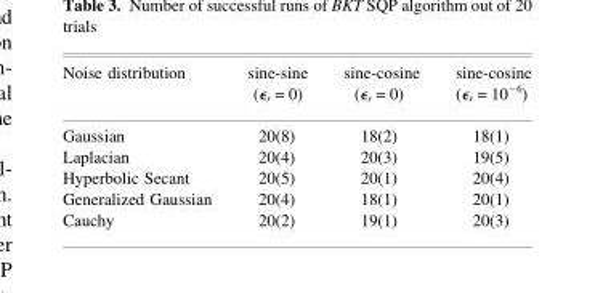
<table><thead><tr><td>Noise distribution</td><td>sine-sine (ϵ<sub>r</sub> = 0)</td><td>sine-cosine (ϵ<sub>r</sub> = 0)</td><td>sine-cosine (ϵ<sub>r</sub> = 10<sup>−6</sup>)</td></tr></thead><tbody><tr><td>Gaussian</td><td>20(8)</td><td>18(2)</td><td>18(1)</td></tr><tr><td>Laplacian</td><td>20(4)</td><td>20(3)</td><td>19(5)</td></tr><tr><td>Hyperbolic Secant</td><td>20(5)</td><td>20(1)</td><td>20(4)</td></tr><tr><td>Generalized Gaussian</td><td>20(4)</td><td>18(1)</td><td>20(1)</td></tr><tr><td>Cauchy</td><td>20(2)</td><td>19(1)</td><td>20(3)</td></tr></tbody></table>